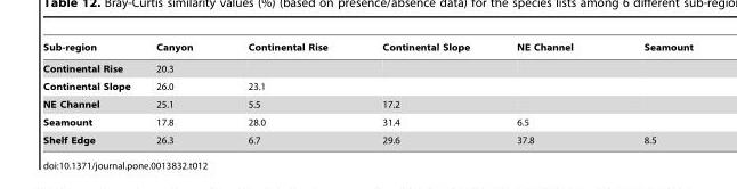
<table><thead><tr><td>Sub-region</td><td>Canyon</td><td>Continental Rise</td><td>Continental Slope</td><td>NE Channel</td><td>Seamount</td></tr></thead><tbody><tr><td>Continental Rise</td><td>20.3</td><td></td><td></td><td></td><td></td></tr><tr><td>Continental Slope</td><td>26.0</td><td>23.1</td><td></td><td></td><td></td></tr><tr><td>NE Channel</td><td>25.1</td><td>5.5</td><td>17.2</td><td></td><td></td></tr><tr><td>Seamount</td><td>17.8</td><td>28.0</td><td>31.4</td><td>6.5</td><td></td></tr><tr><td>Shelf Edge</td><td>26.3</td><td>6.7</td><td>29.6</td><td>37.8</td><td>8.5</td></tr></tbody></table>